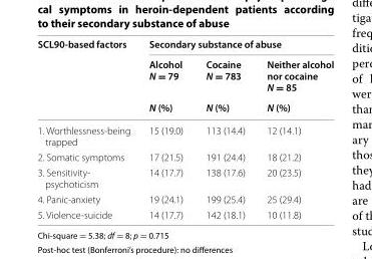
<table><thead><tr><td rowspan="3">SCL90-based factors</td><td colspan="3">Secondary substance of abuse</td></tr><tr><td rowspan="2">Alcohol N = 79 N (%)</td><td rowspan="2">Cocaine N = 783 N (%)</td><td rowspan="2">Neither alcohol nor cocaine N = 85 N (%)</td></tr><tr></tr></thead><tbody><tr><td>1. Worthlessness‑being trapped</td><td>15 (19.0)</td><td>113 (14.4)</td><td>12 (14.1)</td></tr><tr><td>2. Somatic symptoms</td><td>17 (21.5)</td><td>191 (24.4)</td><td>18 (21.2)</td></tr><tr><td>3. Sensitivity‑ psychoticism</td><td>14 (17.7)</td><td>138 (17.6)</td><td>20 (23.5)</td></tr><tr><td>4. Panic‑anxiety</td><td>19 (24.1)</td><td>199 (25.4)</td><td>25 (29.4)</td></tr><tr><td>5. Violence‑suicide</td><td>14 (17.7)</td><td>142 (18.1)</td><td>10 (11.8)</td></tr></tbody></table>